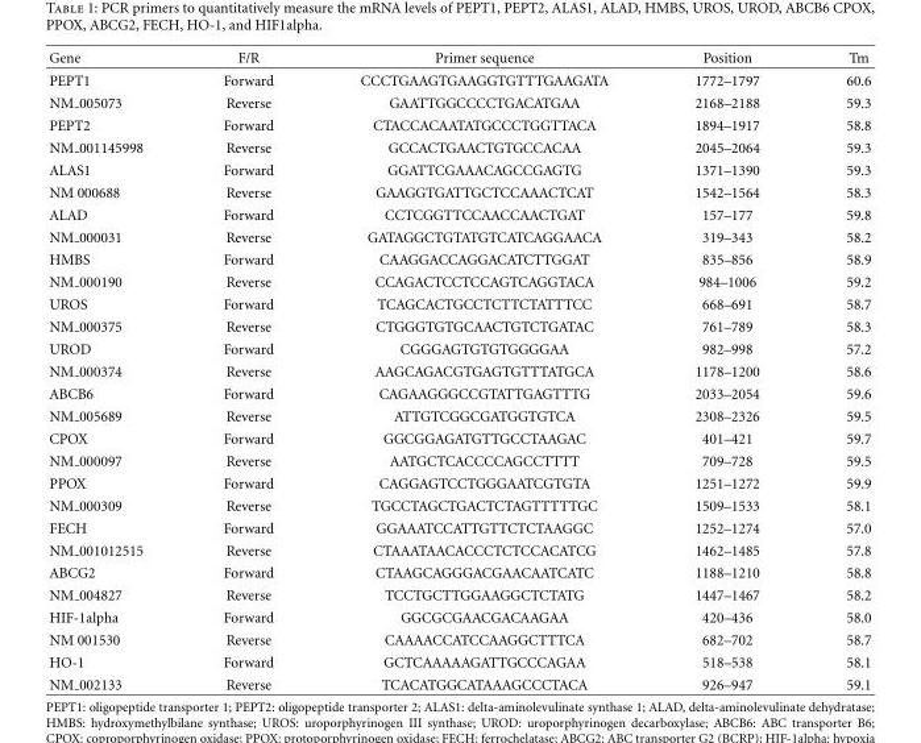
<table><thead><tr><td>Gene</td><td>F/R</td><td>Primer sequence</td><td>Position</td><td>Tm</td></tr></thead><tbody><tr><td>PEPT1</td><td>Forward</td><td>CCCTGAAGTGAAGGTGTTTGAAGATA</td><td>1772–1797</td><td>60.6</td></tr><tr><td>NM 005073</td><td>Reverse</td><td>GAATTGGCCCCTGACATGAA</td><td>2168–2188</td><td>59.3</td></tr><tr><td>PEPT2</td><td>Forward</td><td>CTACCACAATATGCCCTGGTTACA</td><td>1894–1917</td><td>58.8</td></tr><tr><td>NM 001145998</td><td>Reverse</td><td>GCCACTGAACTGTGCCACAA</td><td>2045–2064</td><td>59.3</td></tr><tr><td>ALAS1</td><td>Forward</td><td>GGATTCGAAACAGCCGAGTG</td><td>1371–1390</td><td>59.3</td></tr><tr><td>NM 000688</td><td>Reverse</td><td>GAAGGTGATTGCTCCAAACTCAT</td><td>1542–1564</td><td>58.3</td></tr><tr><td>ALAD</td><td>Forward</td><td>CCTCGGTTCCAACCAACTGAT</td><td>157–177</td><td>59.8</td></tr><tr><td>NM 000031</td><td>Reverse</td><td>GATAGGCTGTATGTCATCAGGAACA</td><td>319–343</td><td>58.2</td></tr><tr><td>HMBS</td><td>Forward</td><td>CAAGGACCAGGACATCTTGGAT</td><td>835–856</td><td>58.9</td></tr><tr><td>NM 000190</td><td>Reverse</td><td>CCAGACTCCTCCAGTCAGGTACA</td><td>984–1006</td><td>59.2</td></tr><tr><td>UROS</td><td>Forward</td><td>TCAGCACTGCCTCTTCTATTTCC</td><td>668–691</td><td>58.7</td></tr><tr><td>NM 000375</td><td>Reverse</td><td>CTGGGTGTGCAACTGTCTGATAC</td><td>761–789</td><td>58.3</td></tr><tr><td>UROD</td><td>Forward</td><td>CGGGAGTGTGTGGGGAA</td><td>982–998</td><td>57.2</td></tr><tr><td>NM 000374</td><td>Reverse</td><td>AAGCAGACGTGAGTGTTTATGCA</td><td>1178–1200</td><td>58.6</td></tr><tr><td>ABCB6</td><td>Forward</td><td>CAGAAGGGCCGTATTGAGTTTG</td><td>2033–2054</td><td>59.6</td></tr><tr><td>NM 005689</td><td>Reverse</td><td>ATTGTCGGCGATGGTGTCA</td><td>2308–2326</td><td>59.5</td></tr><tr><td>CPOX</td><td>Forward</td><td>GGCGGAGATGTTGCCTAAGAC</td><td>401–421</td><td>59.7</td></tr><tr><td>NM 000097</td><td>Reverse</td><td>AATGCTCACCCCAGCCTTTT</td><td>709–728</td><td>59.5</td></tr><tr><td>PPOX</td><td>Forward</td><td>CAGGAGTCCTGGGAATCGTGTA</td><td>1251–1272</td><td>59.9</td></tr><tr><td>NM 000309</td><td>Reverse</td><td>TGCCTAGCTGACTCTAGTTTTTGC</td><td>1509–1533</td><td>58.1</td></tr><tr><td>FECH</td><td>Forward</td><td>GGAAATCCATTGTTCTCTAAGGC</td><td>1252–1274</td><td>57.0</td></tr><tr><td>NM 001012515</td><td>Reverse</td><td>CTAAATAACACCCTCTCCACATCG</td><td>1462–1485</td><td>57.8</td></tr><tr><td>ABCG2</td><td>Forward</td><td>CTAAGCAGGGACGAACAATCATC</td><td>1188–1210</td><td>58.8</td></tr><tr><td>NM 004827</td><td>Reverse</td><td>TCCTGCTTGGAAGGCTCTATG</td><td>1447–1467</td><td>58.2</td></tr><tr><td>HIF-1alpha</td><td>Forward</td><td>GGCGCGAACGACAAGAA</td><td>420–436</td><td>58.0</td></tr><tr><td>NM 001530</td><td>Reverse</td><td>CAAAACCATCCAAGGCTTTCA</td><td>682–702</td><td>58.7</td></tr><tr><td>HO-1</td><td>Forward</td><td>GCTCAAAAAGATTGCCCAGAA</td><td>518–538</td><td>58.1</td></tr><tr><td>NM 002133</td><td>Reverse</td><td>TCACATGGCATAAAGCCCTACA</td><td>926–947</td><td>59.1</td></tr></tbody></table>